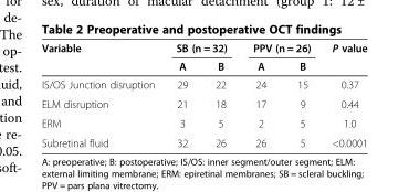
<table><thead><tr><td rowspan="2">Variable</td><td colspan="2">SB (n = 32)</td><td colspan="2">PPV (n = 26)</td><td rowspan="2">P value</td></tr><tr><td>A</td><td>B</td><td>A</td><td>B</td></tr></thead><tbody><tr><td>IS/OS Junction disruption</td><td>29</td><td>22</td><td>24</td><td>15</td><td>0.37</td></tr><tr><td>ELM disruption</td><td>21</td><td>18</td><td>17</td><td>9</td><td>0.44</td></tr><tr><td>ERM</td><td>3</td><td>5</td><td>2</td><td>5</td><td>1.0</td></tr><tr><td>Subretinal fluid</td><td>32</td><td>26</td><td>26</td><td>5</td><td>&lt;0.0001</td></tr></tbody></table>